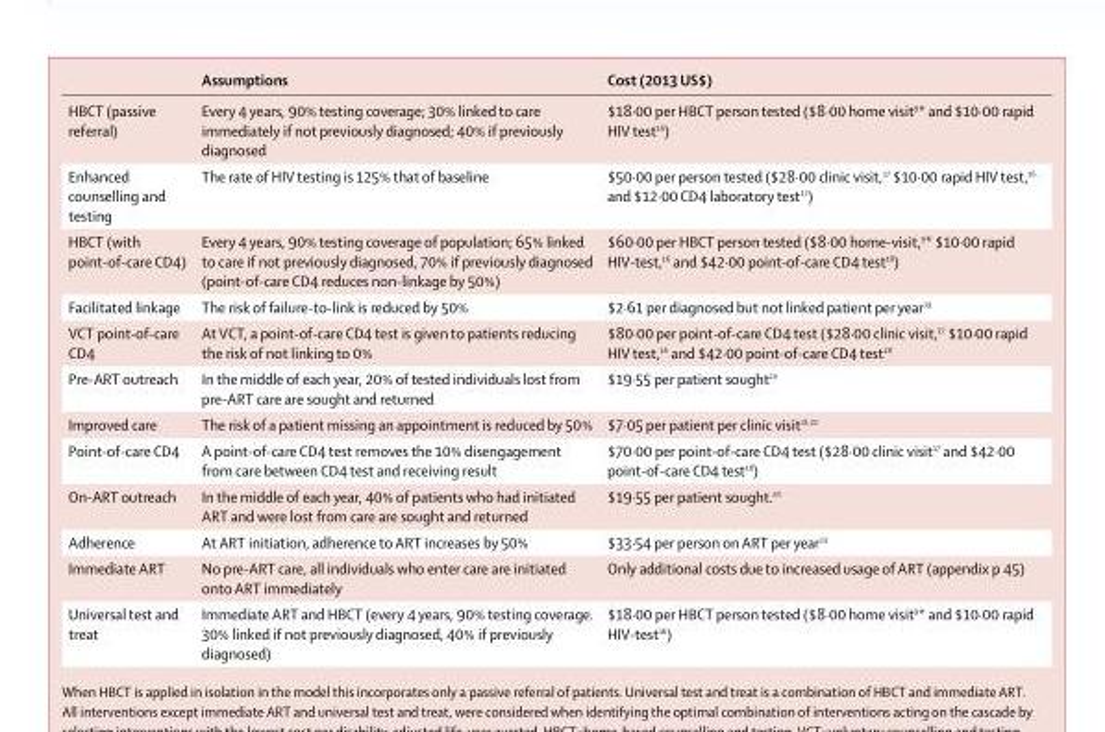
<table><thead><tr><td></td><td>Assumptions</td><td>Cost (2013 US$)</td></tr></thead><tbody><tr><td>HBCT (passive referral)</td><td>Every 4 years, 90% testing coverage; 30% linked to care immediately if not previously diagnosed; 40% if previously diagnosed</td><td>$18·00 per HBCT person tested ($8·00 home visit<sup>9</sup>* and $10·00 rapid HIV test<sup>16</sup>)</td></tr><tr><td>Enhanced counselling and testing</td><td>The rate of HIV testing is 125% that of baseline</td><td>$50·00 per person tested ($28·00 clinic visit,<sup>17</sup> $10·00 rapid HIV test,<sup>16</sup> and $12·00 CD4 laboratory test<sup>17</sup>)</td></tr><tr><td>HBCT (with point-of-care CD4)</td><td>Every 4 years, 90% testing coverage of population; 65% linked to care if not previously diagnosed, 70% if previously diagnosed (point-of-care CD4 reduces non-linkage by 50%)</td><td>$60·00 per HBCT person tested ($8·00 home-visit,<sup>9</sup>* $10·00 rapid HIV-test,<sup>16</sup> and $42·00 point-of-care CD4 test<sup>18</sup>)</td></tr><tr><td>Facilitated linkage</td><td>The risk of failure-to-link is reduced by 50%</td><td>$2·61 per diagnosed but not linked patient per year<sup>19</sup></td></tr><tr><td>VCT point-of-care CD4</td><td>At VCT, a point-of-care CD4 test is given to patients reducing the risk of not linking to 0%</td><td>$80·00 per point-of-care CD4 test ($28·00 clinic visit,<sup>17</sup> $10·00 rapid HIV test,<sup>16</sup> and $42·00 point-of-care CD4 test<sup>18</sup></td></tr><tr><td>Pre-ART outreach</td><td>In the middle of each year, 20% of tested individuals lost from pre-ART care are sought and returned</td><td>$19·55 per patient sought<sup>20</sup></td></tr><tr><td>Improved care</td><td>The risk of a patient missing an appointment is reduced by 50%</td><td>$7·05 per patient per clinic visit<sup>21</sup>,<sup>22</sup></td></tr><tr><td>Point-of-care CD4</td><td>A point-of-care CD4 test removes the 10% disengagement from care between CD4 test and receiving result</td><td>$70·00 per point-of-care CD4 test ($28·00 clinic visit<sup>17</sup> and $42·00 point-of-care CD4 test<sup>18</sup>)</td></tr><tr><td>On-ART outreach</td><td>In the middle of each year, 40% of patients who had initiated ART and were lost from care are sought and returned</td><td>$19·55 per patient sought.<sup>20</sup></td></tr><tr><td>Adherence</td><td>At ART initiation, adherence to ART increases by 50%</td><td>$33·54 per person on ART per year<sup>23</sup></td></tr><tr><td>Immediate ART</td><td>No pre-ART care, all individuals who enter care are initiated onto ART immediately</td><td>Only additional costs due to increased usage of ART (appendix p 45)</td></tr><tr><td>Universal test and treat</td><td>Immediate ART and HBCT (every 4 years, 90% testing coverage. 30% linked if not previously diagnosed, 40% if previously diagnosed)</td><td>$18·00 per HBCT person tested ($8·00 home visit<sup>9</sup>* and $10·00 rapid HIV-test<sup>16</sup>)</td></tr></tbody></table>